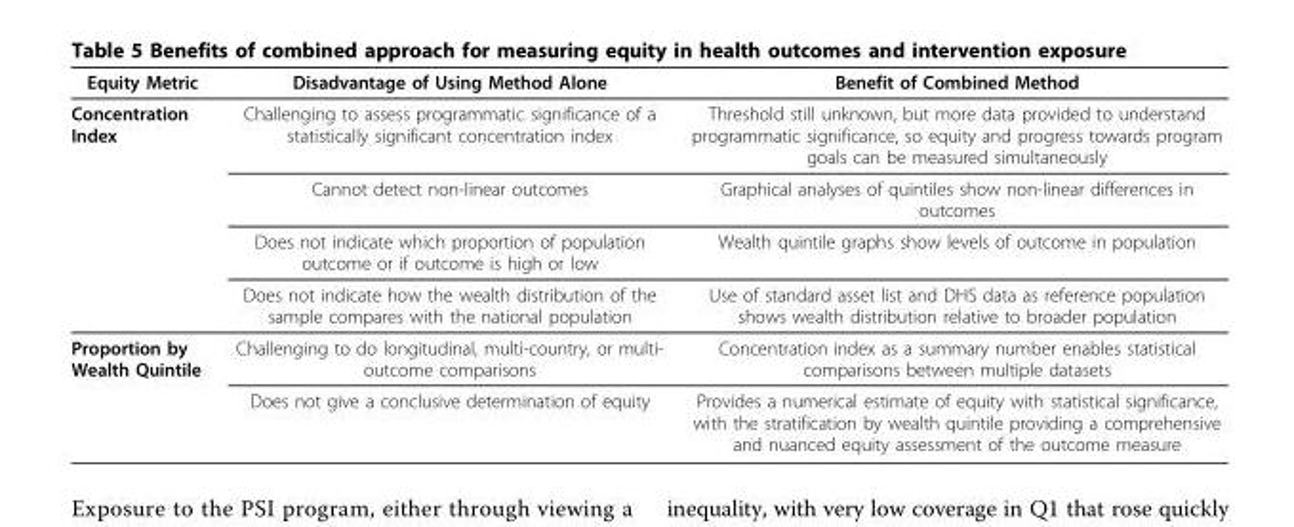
<table><thead><tr><td>Equity Metric</td><td>Disadvantage of Using Method Alone</td><td>Benefit of Combined Method</td></tr></thead><tbody><tr><td rowspan="4">Concentration Index</td><td>Challenging to assess programmatic significance of a statistically significant concentration index</td><td>Threshold still unknown, but more data provided to understand programmatic significance, so equity and progress towards program goals can be measured simultaneously</td></tr><tr><td>Cannot detect non-linear outcomes</td><td>Graphical analyses of quintiles show non-linear differences in outcomes</td></tr><tr><td>Does not indicate which proportion of population outcome or if outcome is high or low</td><td>Wealth quintile graphs show levels of outcome in population</td></tr><tr><td>Does not indicate how the wealth distribution of the sample compares with the national population</td><td>Use of standard asset list and DHS data as reference population shows wealth distribution relative to broader population</td></tr><tr><td rowspan="2">Proportion by Wealth Quintile</td><td>Challenging to do longitudinal, multi-country, or multi- outcome comparisons</td><td>Concentration index as a summary number enables statistical comparisons between multiple datasets</td></tr><tr><td>Does not give a conclusive determination of equity</td><td>Provides a numerical estimate of equity with statistical significance, with the stratification by wealth quintile providing a comprehensive and nuanced equity assessment of the outcome measure</td></tr></tbody></table>